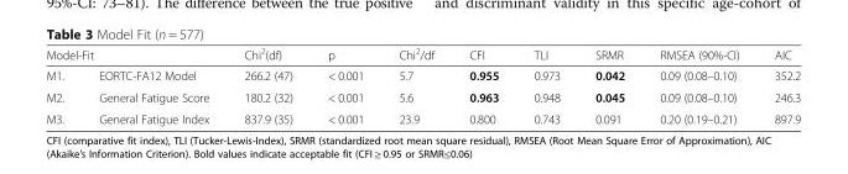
<table><thead><tr><td colspan="2">Model-Fit</td><td rowspan="2">Chi<sup>2</sup>(df) 266.2 (47)</td><td rowspan="2">p &lt; 0.001</td><td rowspan="2">Chi<sup>2</sup>/df 5.7</td><td rowspan="2">CFI 0.955</td><td rowspan="2">TLI 0.973</td><td rowspan="2">SRMR 0.042</td><td rowspan="2">RMSEA (90%-CI) 0.09 (0.08–0.10)</td><td rowspan="2">AIC 352.2</td></tr><tr><td>M1.</td><td>EORTC-FA12 Model</td></tr></thead><tbody><tr><td>M2.</td><td>General Fatigue Score</td><td>180.2 (32)</td><td>&lt; 0.001</td><td>5.6</td><td>0.963</td><td>0.948</td><td>0.045</td><td>0.09 (0.08–0.10)</td><td>246.3</td></tr><tr><td>M3.</td><td>General Fatigue Index</td><td>837.9 (35)</td><td>&lt; 0.001</td><td>23.9</td><td>0.800</td><td>0.743</td><td>0.091</td><td>0.20 (0.19–0.21)</td><td>897.9</td></tr></tbody></table>